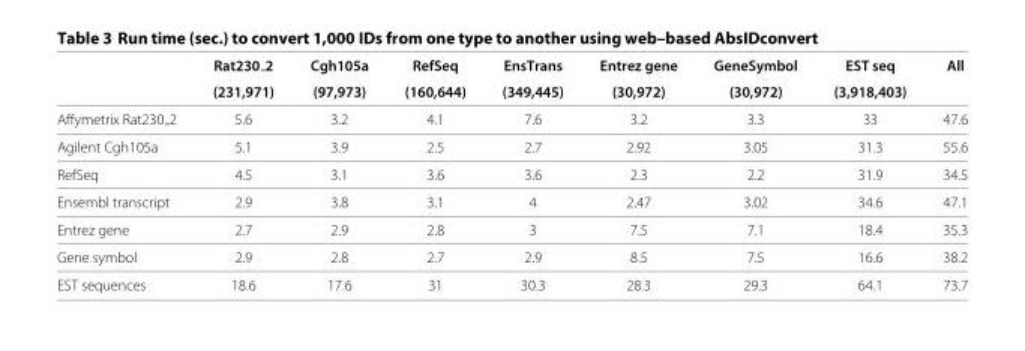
<table><thead><tr><td rowspan="2"></td><td rowspan="2">Rat230 2 (231,971)</td><td rowspan="2">Cgh105a (97,973)</td><td rowspan="2">RefSeq (160,644)</td><td rowspan="2">EnsTrans (349,445)</td><td rowspan="2">Entrez gene (30,972)</td><td rowspan="2">GeneSymbol (30,972)</td><td rowspan="2">EST seq (3,918,403)</td><td rowspan="2">All</td></tr><tr></tr></thead><tbody><tr><td>Affymetrix Rat230 2</td><td>5.6</td><td>3.2</td><td>4.1</td><td>7.6</td><td>3.2</td><td>3.3</td><td>33</td><td>47.6</td></tr><tr><td>Agilent Cgh105a</td><td>5.1</td><td>3.9</td><td>2.5</td><td>2.7</td><td>2.92</td><td>3.05</td><td>31.3</td><td>55.6</td></tr><tr><td>RefSeq</td><td>4.5</td><td>3.1</td><td>3.6</td><td>3.6</td><td>2.3</td><td>2.2</td><td>31.9</td><td>34.5</td></tr><tr><td>Ensembl transcript</td><td>2.9</td><td>3.8</td><td>3.1</td><td>4</td><td>2.47</td><td>3.02</td><td>34.6</td><td>47.1</td></tr><tr><td>Entrez gene</td><td>2.7</td><td>2.9</td><td>2.8</td><td>3</td><td>7.5</td><td>7.1</td><td>18.4</td><td>35.3</td></tr><tr><td>Gene symbol</td><td>2.9</td><td>2.8</td><td>2.7</td><td>2.9</td><td>8.5</td><td>7.5</td><td>16.6</td><td>38.2</td></tr><tr><td>EST sequences</td><td>18.6</td><td>17.6</td><td>31</td><td>30.3</td><td>28.3</td><td>29.3</td><td>64.1</td><td>73.7</td></tr></tbody></table>